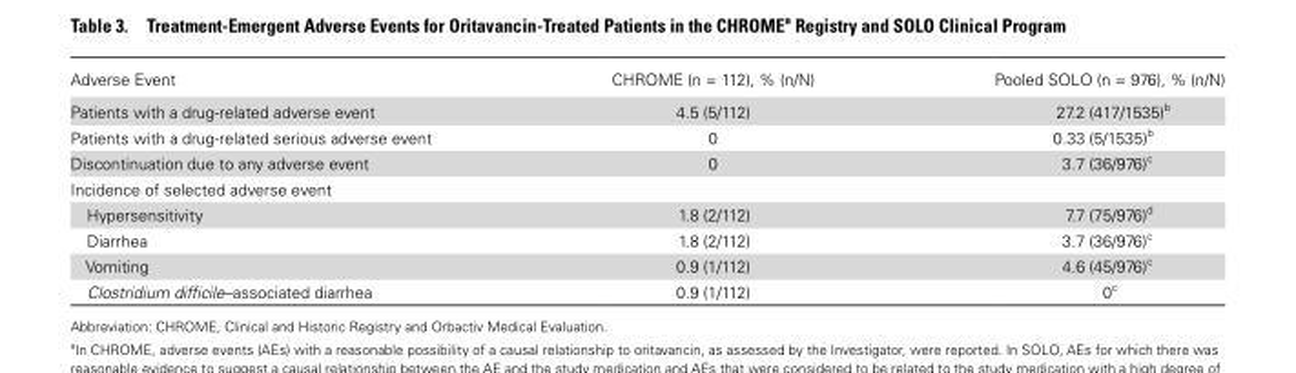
<table><thead><tr><td>Adverse Event</td><td>CHROME (n = 112), % (n/N)</td><td>Pooled SOLO (n = 976), % (n/N)</td></tr></thead><tbody><tr><td>Patients with a drug-related adverse event</td><td>4.5 (5/112)</td><td>27.2 (417/1535)<sup>b</sup></td></tr><tr><td>Patients with a drug-related serious adverse event</td><td>0</td><td>0.33 (5/1535)<sup>b</sup></td></tr><tr><td>Discontinuation due to any adverse event</td><td>0</td><td>3.7 (36/976)<sup>c</sup></td></tr><tr><td colspan="3">Incidence of selected adverse event</td></tr><tr><td>Hypersensitivity</td><td>1.8 (2/112)</td><td>7.7 (75/976)<sup>d</sup></td></tr><tr><td>Diarrhea</td><td>1.8 (2/112)</td><td>3.7 (36/976)<sup>c</sup></td></tr><tr><td>Vomiting</td><td>0.9 (1/112)</td><td>4.6 (45/976)<sup>c</sup></td></tr><tr><td>Clostridium difficile–associated diarrhea</td><td>0.9 (1/112)</td><td>0<sup>c</sup></td></tr></tbody></table>